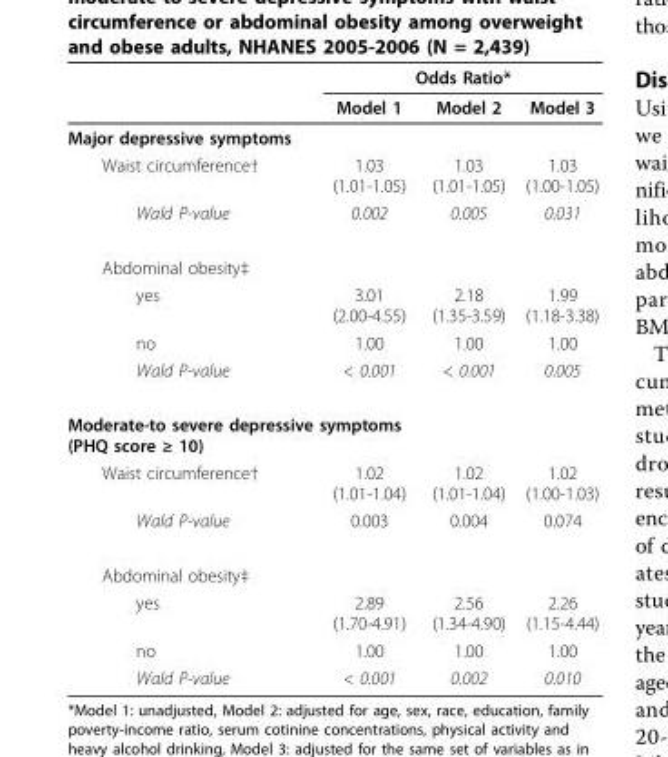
<table><thead><tr><td rowspan="2"></td><td colspan="3">Odds Ratio*</td></tr><tr><td>Model 1</td><td>Model 2</td><td>Model 3</td></tr></thead><tbody><tr><td colspan="4">Major depressive symptoms</td></tr><tr><td>Waist circumference†</td><td>1.03 (1.01-1.05)</td><td>1.03 (1.01-1.05)</td><td>1.03 (1.00-1.05)</td></tr><tr><td>Wald P-value</td><td>0.002</td><td>0.005</td><td>0.031</td></tr><tr><td colspan="4">Abdominal obesity‡</td></tr><tr><td>yes</td><td>3.01 (2.00-4.55)</td><td>2.18 (1.35-3.59)</td><td>1.99 (1.18-3.38)</td></tr><tr><td>no</td><td>1.00</td><td>1.00</td><td>1.00</td></tr><tr><td>Wald P-value</td><td>&lt; 0.001</td><td>&lt; 0.001</td><td>0.005</td></tr><tr><td colspan="4">Moderate-to severe depressive symptoms (PHQ score ≥ 10)</td></tr><tr><td>Waist circumference†</td><td>1.02 (1.01-1.04)</td><td>1.02 (1.01-1.04)</td><td>1.02 (1.00-1.03)</td></tr><tr><td>Wald P-value</td><td>0.003</td><td>0.004</td><td>0.074</td></tr><tr><td colspan="4">Abdominal obesity‡</td></tr><tr><td>yes</td><td>2.89 (1.70-4.91)</td><td>2.56 (1.34-4.90)</td><td>2.26 (1.15-4.44)</td></tr><tr><td>no</td><td>1.00</td><td>1.00</td><td>1.00</td></tr><tr><td>Wald P-value</td><td>&lt; 0.001</td><td>0.002</td><td>0.010</td></tr></tbody></table>